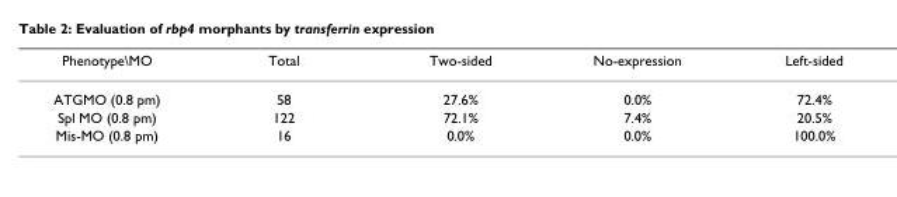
<table><thead><tr><td>Phenotype\MO</td><td>Total</td><td>Two-sided</td><td>No-expression</td><td>Left-sided</td></tr></thead><tbody><tr><td>ATGMO (0.8 pm)</td><td>58</td><td>27.6%</td><td>0.0%</td><td>72.4%</td></tr><tr><td>Spl MO (0.8 pm)</td><td>122</td><td>72.1%</td><td>7.4%</td><td>20.5%</td></tr><tr><td>Mis-MO (0.8 pm)</td><td>16</td><td>0.0%</td><td>0.0%</td><td>100.0%</td></tr></tbody></table>